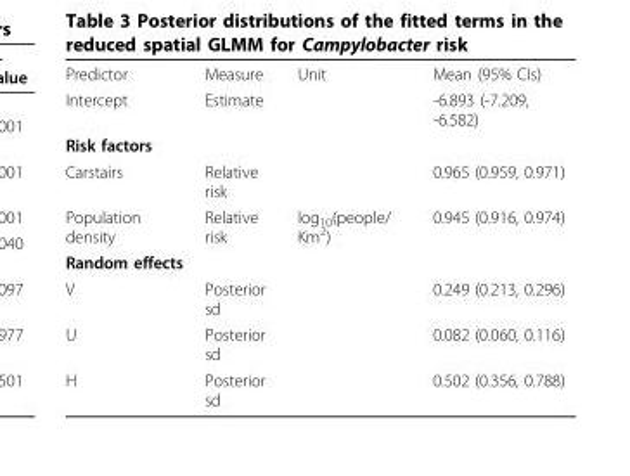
<table><tbody><tr><td>Predictor</td><td>Measure</td><td>Unit</td><td>Mean (95% CIs)</td></tr><tr><td>Intercept</td><td>Estimate</td><td></td><td>-6.893 (-7.209, -6.582)</td></tr><tr><td colspan="4">Risk factors</td></tr><tr><td>Carstairs</td><td>Relative risk</td><td></td><td>0.965 (0.959, 0.971)</td></tr><tr><td>Population density</td><td>Relative risk</td><td>log<sub>10</sub>(people/ Km<sup>2</sup>)</td><td>0.945 (0.916, 0.974)</td></tr><tr><td colspan="4">Random effects</td></tr><tr><td>V</td><td>Posterior sd</td><td></td><td>0.249 (0.213, 0.296)</td></tr><tr><td>U</td><td>Posterior sd</td><td></td><td>0.082 (0.060, 0.116)</td></tr><tr><td>H</td><td>Posterior sd</td><td></td><td>0.502 (0.356, 0.788)</td></tr></tbody></table>